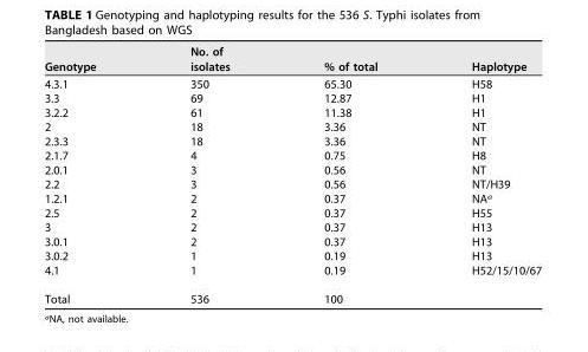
<table><thead><tr><td>Genotype</td><td>No. of isolates</td><td>% of total</td><td>Haplotype</td></tr></thead><tbody><tr><td>4.3.1</td><td>350</td><td>65.30</td><td>H58</td></tr><tr><td>3.3</td><td>69</td><td>12.87</td><td>H1</td></tr><tr><td>3.2.2</td><td>61</td><td>11.38</td><td>H1</td></tr><tr><td>2</td><td>18</td><td>3.36</td><td>NT</td></tr><tr><td>2.3.3</td><td>18</td><td>3.36</td><td>NT</td></tr><tr><td>2.1.7</td><td>4</td><td>0.75</td><td>H8</td></tr><tr><td>2.0.1</td><td>3</td><td>0.56</td><td>NT</td></tr><tr><td>2.2</td><td>3</td><td>0.56</td><td>NT/H39</td></tr><tr><td>1.2.1</td><td>2</td><td>0.37</td><td>NA<sup>a</sup></td></tr><tr><td>2.5</td><td>2</td><td>0.37</td><td>H55</td></tr><tr><td>3</td><td>2</td><td>0.37</td><td>H13</td></tr><tr><td>3.0.1</td><td>2</td><td>0.37</td><td>H13</td></tr><tr><td>3.0.2</td><td>1</td><td>0.19</td><td>H13</td></tr><tr><td>4.1</td><td>1</td><td>0.19</td><td>H52/15/10/67</td></tr><tr><td>Total</td><td>536</td><td>100</td><td></td></tr></tbody></table>